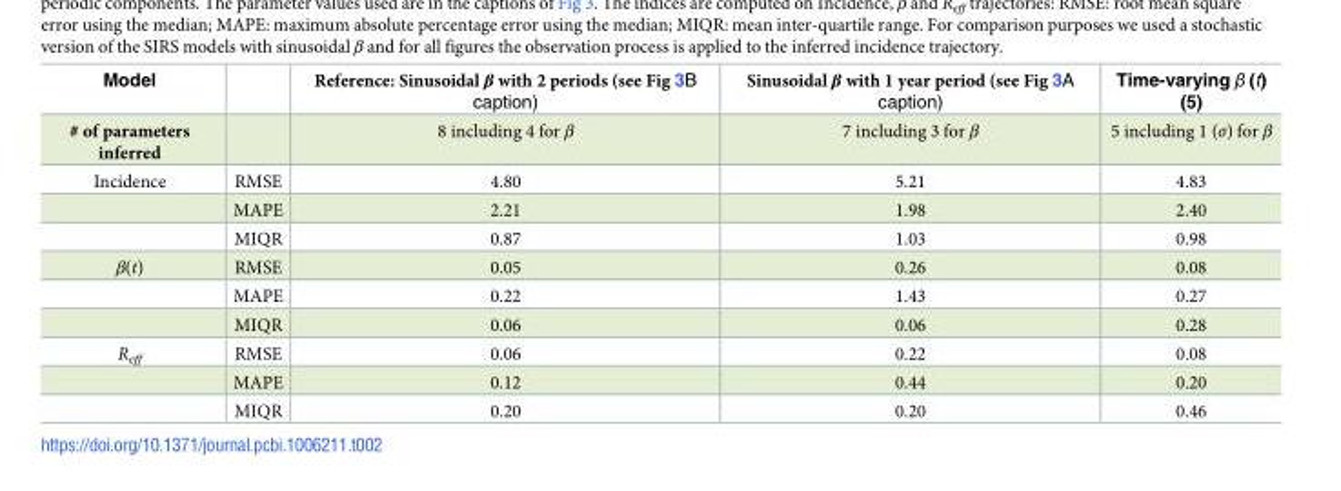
<table><thead><tr><td>Model</td><td></td><td>Reference: Sinusoidal β with 2 periods (see Fig 3B caption)</td><td>Sinusoidal β with 1 year period (see Fig 3A caption)</td><td>Time-varying β (t) (5)</td></tr></thead><tbody><tr><td># of parameters inferred</td><td></td><td>8 including 4 for β</td><td>7 including 3 for β</td><td>5 including 1 (σ) for β</td></tr><tr><td rowspan="3">Incidence</td><td>RMSE</td><td>4.80</td><td>5.21</td><td>4.83</td></tr><tr><td>MAPE</td><td>2.21</td><td>1.98</td><td>2.40</td></tr><tr><td>MIQR</td><td>0.87</td><td>1.03</td><td>0.98</td></tr><tr><td rowspan="3">β(t)</td><td>RMSE</td><td>0.05</td><td>0.26</td><td>0.08</td></tr><tr><td>MAPE</td><td>0.22</td><td>1.43</td><td>0.27</td></tr><tr><td>MIQR</td><td>0.06</td><td>0.06</td><td>0.28</td></tr><tr><td rowspan="3">R<sub>eff</sub></td><td>RMSE</td><td>0.06</td><td>0.22</td><td>0.08</td></tr><tr><td>MAPE</td><td>0.12</td><td>0.44</td><td>0.20</td></tr><tr><td>MIQR</td><td>0.20</td><td>0.20</td><td>0.46</td></tr></tbody></table>